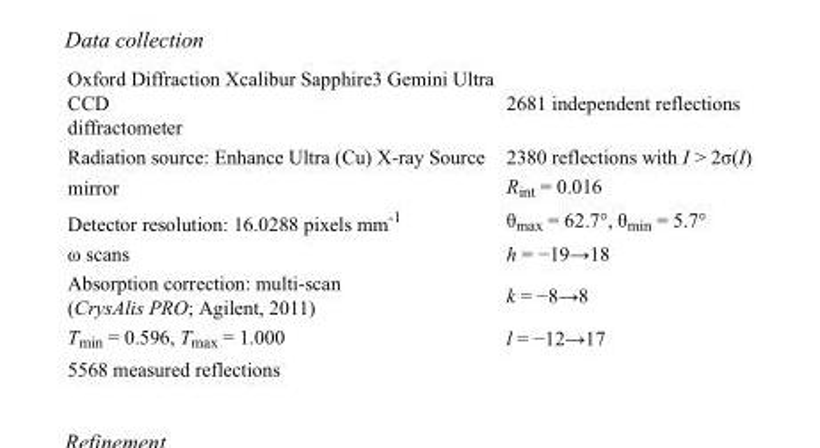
<table><tbody><tr><td>Oxford Diffraction Xcalibur Sapphire3 Gemini Ultra CCD diffractometer</td><td>2681 independent reflections</td></tr><tr><td>Radiation source: Enhance Ultra (Cu) X-ray Source</td><td>2380 reflections with I &gt; 2σ(I)</td></tr><tr><td>mirror</td><td>R<sub>int</sub> = 0.016</td></tr><tr><td>Detector resolution: 16.0288 pixels mm<sup>-1</sup></td><td>θ<sub>max</sub> = 62.7°, θ<sub>min</sub> = 5.7°</td></tr><tr><td>ω scans</td><td>h = −19→18</td></tr><tr><td>Absorption correction: multi-scan (CrysAlis PRO; Agilent, 2011)</td><td>k = −8→8</td></tr><tr><td>T<sub>min</sub> = 0.596, T<sub>max</sub> = 1.000</td><td>l = −12→17</td></tr><tr><td>5568 measured reflections</td><td></td></tr></tbody></table>